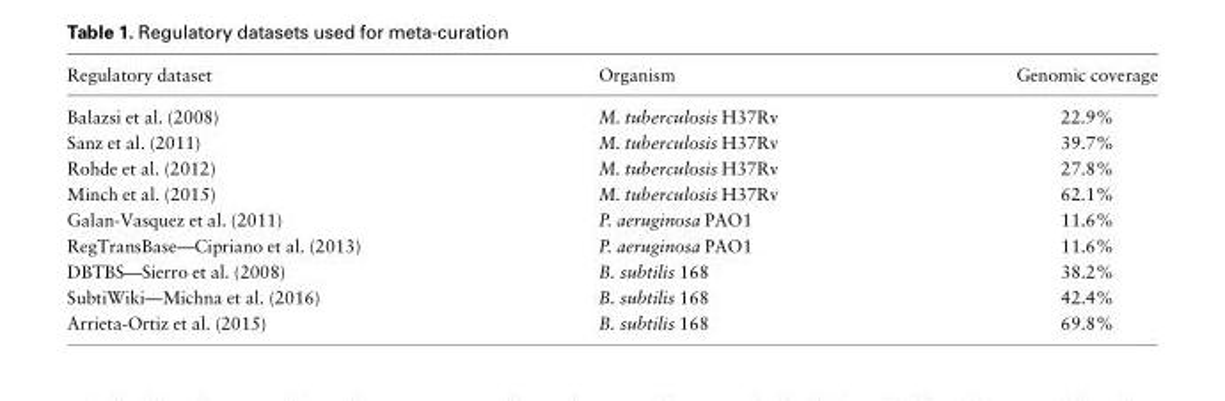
<table><thead><tr><td>Regulatory dataset</td><td>Organism</td><td>Genomic coverage</td></tr></thead><tbody><tr><td>Balazsi et al. (2008)</td><td>M. tuberculosis H37Rv</td><td>22.9%</td></tr><tr><td>Sanz et al. (2011)</td><td>M. tuberculosis H37Rv</td><td>39.7%</td></tr><tr><td>Rohde et al. (2012)</td><td>M. tuberculosis H37Rv</td><td>27.8%</td></tr><tr><td>Minch et al. (2015)</td><td>M. tuberculosis H37Rv</td><td>62.1%</td></tr><tr><td>Galan-Vasquez et al. (2011)</td><td>P. aeruginosa PAO1</td><td>11.6%</td></tr><tr><td>RegTransBase—Cipriano et al. (2013)</td><td>P. aeruginosa PAO1</td><td>11.6%</td></tr><tr><td>DBTBS—Sierro et al. (2008)</td><td>B. subtilis 168</td><td>38.2%</td></tr><tr><td>SubtiWiki—Michna et al. (2016)</td><td>B. subtilis 168</td><td>42.4%</td></tr><tr><td>Arrieta-Ortiz et al. (2015)</td><td>B. subtilis 168</td><td>69.8%</td></tr></tbody></table>